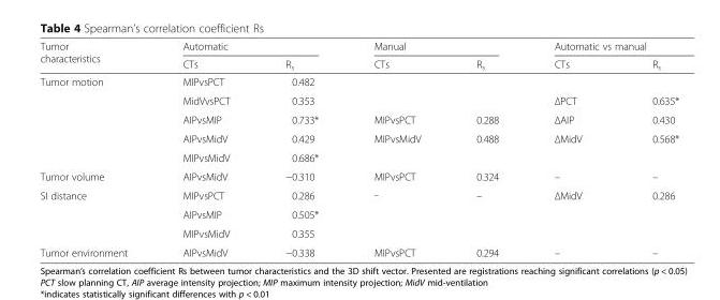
<table><thead><tr><td rowspan="2">Tumor characteristics</td><td colspan="2">Automatic</td><td colspan="2">Manual</td><td colspan="2">Automatic vs manual</td></tr><tr><td>CTs</td><td>R<sub>s</sub></td><td>CTs</td><td>R<sub>s</sub></td><td>CTs</td><td>R<sub>s</sub></td></tr></thead><tbody><tr><td rowspan="5">Tumor motion</td><td>MIPvsPCT</td><td>0.482</td><td></td><td></td><td></td><td></td></tr><tr><td>MidVvsPCT</td><td>0.353</td><td></td><td></td><td>ΔPCT</td><td>0.635*</td></tr><tr><td>AIPvsMIP</td><td>0.733*</td><td>MIPvsPCT</td><td>0.288</td><td>ΔAIP</td><td>0.430</td></tr><tr><td>AIPvsMidV</td><td>0.429</td><td>MIPvsMidV</td><td>0.488</td><td>ΔMidV</td><td>0.568*</td></tr><tr><td>MIPvsMidV</td><td>0.686*</td><td></td><td></td><td></td><td></td></tr><tr><td>Tumor volume</td><td>AIPvsMidV</td><td>−0.310</td><td>MIPvsPCT</td><td>0.324</td><td>–</td><td>–</td></tr><tr><td rowspan="3">SI distance</td><td>MIPvsPCT</td><td>0.286</td><td rowspan="3"><sup>_</sup></td><td rowspan="3">–</td><td rowspan="3">ΔMidV</td><td rowspan="3">0.286</td></tr><tr><td>AIPvsMIP</td><td>0.505*</td></tr><tr><td>MIPvsMidV</td><td>0.355</td></tr><tr><td>Tumor environment</td><td>AIPvsMidV</td><td>−0.338</td><td>MIPvsPCT</td><td>0.294</td><td>–</td><td>–</td></tr></tbody></table>